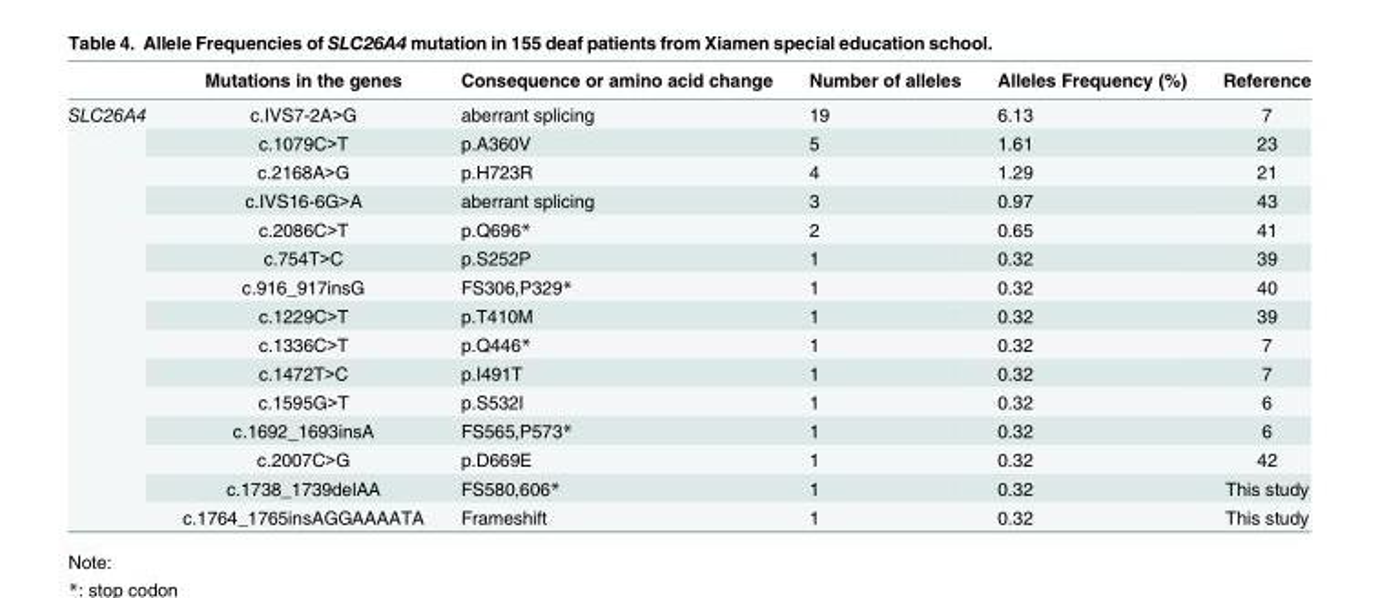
<table><thead><tr><td></td><td>Mutations in the genes</td><td>Consequence or amino acid change</td><td>Number of alleles</td><td>Alleles Frequency (%)</td><td>Reference</td></tr></thead><tbody><tr><td rowspan="15">SLC26A4</td><td>c.IVS7-2A&gt;G</td><td>aberrant splicing</td><td>19</td><td>6.13</td><td>7</td></tr><tr><td>c.1079C&gt;T</td><td>p.A360V</td><td>5</td><td>1.61</td><td>23</td></tr><tr><td>c.2168A&gt;G</td><td>p.H723R</td><td>4</td><td>1.29</td><td>21</td></tr><tr><td>c.IVS16-6G&gt;A</td><td>aberrant splicing</td><td>3</td><td>0.97</td><td>43</td></tr><tr><td>c.2086C&gt;T</td><td>p.Q696*</td><td>2</td><td>0.65</td><td>41</td></tr><tr><td>c.754T&gt;C</td><td>p.S252P</td><td>1</td><td>0.32</td><td>39</td></tr><tr><td>c.916_917insG</td><td>FS306,P329*</td><td>1</td><td>0.32</td><td>40</td></tr><tr><td>c.1229C&gt;T</td><td>p.T410M</td><td>1</td><td>0.32</td><td>39</td></tr><tr><td>c.1336C&gt;T</td><td>p.Q446*</td><td>1</td><td>0.32</td><td>7</td></tr><tr><td>c.1472T&gt;C</td><td>p.I491T</td><td>1</td><td>0.32</td><td>7</td></tr><tr><td>c.1595G&gt;T</td><td>p.S532I</td><td>1</td><td>0.32</td><td>6</td></tr><tr><td>c.1692_1693insA</td><td>FS565,P573*</td><td>1</td><td>0.32</td><td>6</td></tr><tr><td>c.2007C&gt;G</td><td>p.D669E</td><td>1</td><td>0.32</td><td>42</td></tr><tr><td>c.1738_1739delAA</td><td>FS580,606*</td><td>1</td><td>0.32</td><td>This study</td></tr><tr><td>c.1764_1765insAGGAAAATA</td><td>Frameshift</td><td>1</td><td>0.32</td><td>This study</td></tr></tbody></table>